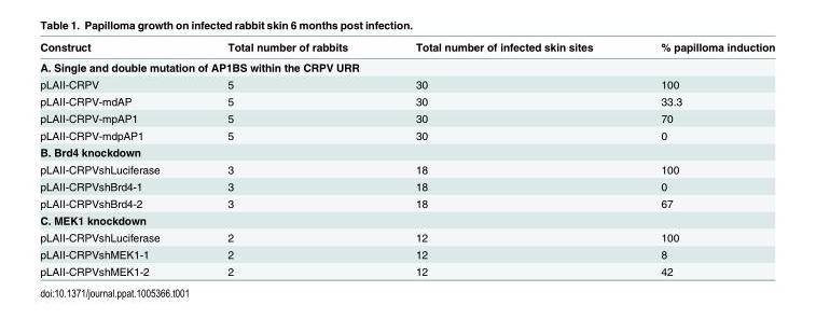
<table><thead><tr><td>Construct</td><td>Total number of rabbits</td><td>Total number of infected skin sites</td><td>% papilloma induction</td></tr></thead><tbody><tr><td colspan="4">A. Single and double mutation of AP1BS within the CRPV URR</td></tr><tr><td>pLAII-CRPV</td><td>5</td><td>30</td><td>100</td></tr><tr><td>pLAII-CRPV-mdAP</td><td>5</td><td>30</td><td>33.3</td></tr><tr><td>pLAII-CRPV-mpAP1</td><td>5</td><td>30</td><td>70</td></tr><tr><td>pLAII-CRPV-mdpAP1</td><td>5</td><td>30</td><td>0</td></tr><tr><td colspan="4">B. Brd4 knockdown</td></tr><tr><td>pLAII-CRPVshLuciferase</td><td>3</td><td>18</td><td>100</td></tr><tr><td>pLAII-CRPVshBrd4-1</td><td>3</td><td>18</td><td>0</td></tr><tr><td>pLAII-CRPVshBrd4-2</td><td>3</td><td>18</td><td>67</td></tr><tr><td colspan="4">C. MEK1 knockdown</td></tr><tr><td>pLAII-CRPVshLuciferase</td><td>2</td><td>12</td><td>100</td></tr><tr><td>pLAII-CRPVshMEK1-1</td><td>2</td><td>12</td><td>8</td></tr><tr><td>pLAII-CRPVshMEK1-2</td><td>2</td><td>12</td><td>42</td></tr></tbody></table>